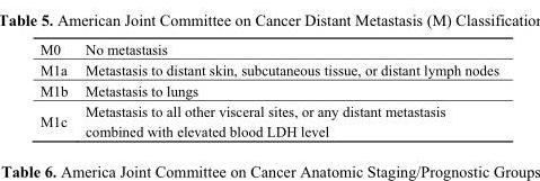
<table><tbody><tr><td>M0</td><td>No metastasis</td></tr><tr><td>M1a</td><td>Metastasis to distant skin, subcutaneous tissue, or distant lymph nodes</td></tr><tr><td>M1b</td><td>Metastasis to lungs</td></tr><tr><td>M1c</td><td>Metastasis to all other visceral sites, or any distant metastasis combined with elevated blood LDH level</td></tr></tbody></table>